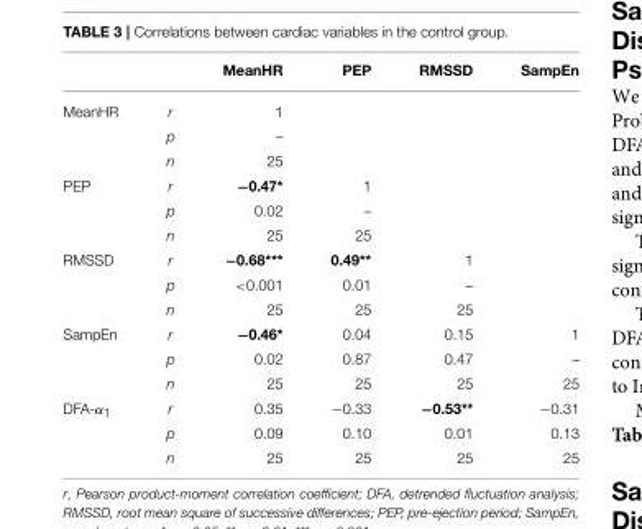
<table><thead><tr><td></td><td></td><td>MeanHR</td><td>PEP</td><td>RMSSD</td><td>SampEn</td></tr></thead><tbody><tr><td rowspan="3">MeanHR</td><td>r</td><td>1</td><td></td><td></td><td></td></tr><tr><td>p</td><td>–</td><td></td><td></td><td></td></tr><tr><td>n</td><td>25</td><td></td><td></td><td></td></tr><tr><td rowspan="3">PEP</td><td>r</td><td>−0.47*</td><td>1</td><td></td><td></td></tr><tr><td>p</td><td>0.02</td><td>–</td><td></td><td></td></tr><tr><td>n</td><td>25</td><td>25</td><td></td><td></td></tr><tr><td rowspan="3">RMSSD</td><td>r</td><td>−0.68***</td><td>0.49**</td><td>1</td><td></td></tr><tr><td>p</td><td>&lt;0.001</td><td>0.01</td><td>–</td><td></td></tr><tr><td>n</td><td>25</td><td>25</td><td>25</td><td></td></tr><tr><td rowspan="3">SampEn</td><td>r</td><td>−0.46*</td><td>0.04</td><td>0.15</td><td>1</td></tr><tr><td>p</td><td>0.02</td><td>0.87</td><td>0.47</td><td>–</td></tr><tr><td>n</td><td>25</td><td>25</td><td>25</td><td>25</td></tr><tr><td rowspan="3">DFA-α<sub>1</sub></td><td>r</td><td>0.35</td><td>−0.33</td><td>−0.53**</td><td>−0.31</td></tr><tr><td>p</td><td>0.09</td><td>0.10</td><td>0.01</td><td>0.13</td></tr><tr><td>n</td><td>25</td><td>25</td><td>25</td><td>25</td></tr></tbody></table>